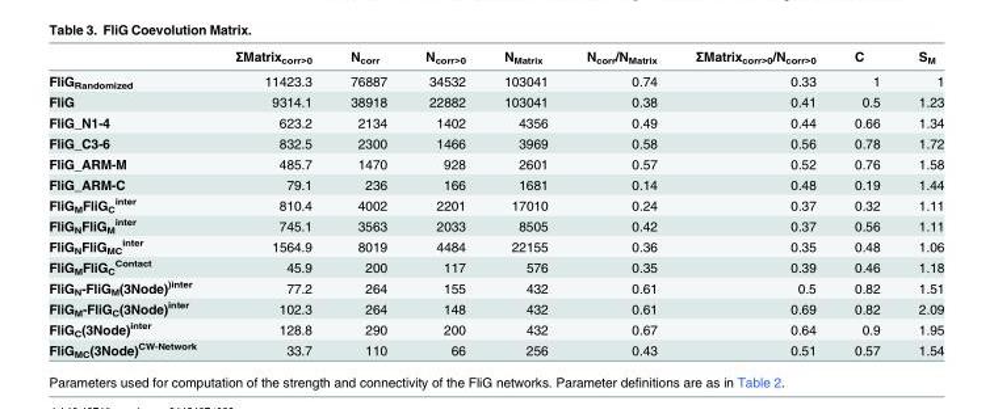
<table><thead><tr><td></td><td>ΣMatrix<sub>corr&gt;0</sub></td><td>N<sub>corr</sub></td><td>N<sub>corr&gt;0</sub></td><td>N<sub>Matrix</sub></td><td>N<sub>corr</sub>/N<sub>Matrix</sub></td><td>ΣMatrix<sub>corr&gt;0</sub>/N<sub>corr&gt;0</sub></td><td>C</td><td>S<sub>M</sub></td></tr></thead><tbody><tr><td>FliG<sub>Randomized</sub></td><td>11423.3</td><td>76887</td><td>34532</td><td>103041</td><td>0.74</td><td>0.33</td><td>1</td><td>1</td></tr><tr><td>FliG</td><td>9314.1</td><td>38918</td><td>22882</td><td>103041</td><td>0.38</td><td>0.41</td><td>0.5</td><td>1.23</td></tr><tr><td>FliG_N1-4</td><td>623.2</td><td>2134</td><td>1402</td><td>4356</td><td>0.49</td><td>0.44</td><td>0.66</td><td>1.34</td></tr><tr><td>FliG_C3-6</td><td>832.5</td><td>2300</td><td>1466</td><td>3969</td><td>0.58</td><td>0.56</td><td>0.78</td><td>1.72</td></tr><tr><td>FliG_ARM-M</td><td>485.7</td><td>1470</td><td>928</td><td>2601</td><td>0.57</td><td>0.52</td><td>0.76</td><td>1.58</td></tr><tr><td>FliG_ARM-C</td><td>79.1</td><td>236</td><td>166</td><td>1681</td><td>0.14</td><td>0.48</td><td>0.19</td><td>1.44</td></tr><tr><td>FliG<sub>M</sub>FliG<sub>C</sub> <sup>inter</sup></td><td>810.4</td><td>4002</td><td>2201</td><td>17010</td><td>0.24</td><td>0.37</td><td>0.32</td><td>1.11</td></tr><tr><td>FliG<sub>N</sub>FliG<sub>M</sub> <sup>inter</sup></td><td>745.1</td><td>3563</td><td>2033</td><td>8505</td><td>0.42</td><td>0.37</td><td>0.56</td><td>1.11</td></tr><tr><td>FliG<sub>N</sub>FliG<sub>MC</sub> <sup>inter</sup></td><td>1564.9</td><td>8019</td><td>4484</td><td>22155</td><td>0.36</td><td>0.35</td><td>0.48</td><td>1.06</td></tr><tr><td>FliG<sub>M</sub>FliG<sub>C</sub> <sup>Contact</sup></td><td>45.9</td><td>200</td><td>117</td><td>576</td><td>0.35</td><td>0.39</td><td>0.46</td><td>1.18</td></tr><tr><td>FliG<sub>N</sub>-FliG<sub>M</sub>(3Node)<sup>)inter</sup></td><td>77.2</td><td>264</td><td>155</td><td>432</td><td>0.61</td><td>0.5</td><td>0.82</td><td>1.51</td></tr><tr><td>FliG<sub>M</sub>-FliG<sub>C</sub>(3Node)<sup>inter</sup></td><td>102.3</td><td>264</td><td>148</td><td>432</td><td>0.61</td><td>0.69</td><td>0.82</td><td>2.09</td></tr><tr><td>FliG<sub>C</sub>(3Node)<sup>inter</sup></td><td>128.8</td><td>290</td><td>200</td><td>432</td><td>0.67</td><td>0.64</td><td>0.9</td><td>1.95</td></tr><tr><td>FliG<sub>MC</sub>(3Node)<sup>CW-Network</sup></td><td>33.7</td><td>110</td><td>66</td><td>256</td><td>0.43</td><td>0.51</td><td>0.57</td><td>1.54</td></tr></tbody></table>